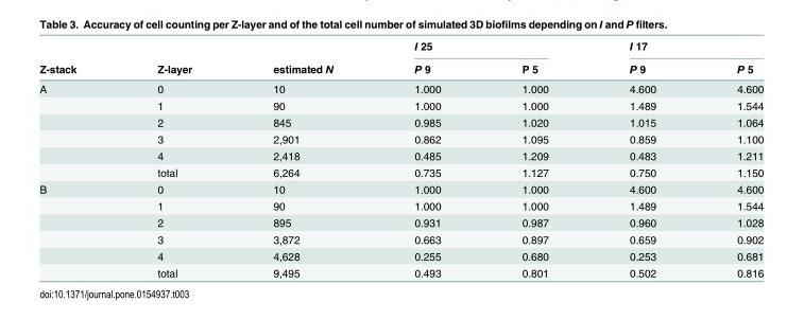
<table><thead><tr><td rowspan="2">Z-stack</td><td rowspan="2">Z-layer</td><td rowspan="2">estimated N</td><td colspan="2">I 25</td><td colspan="2">I 17</td></tr><tr><td>P 9</td><td>P 5</td><td>P 9</td><td>P 5</td></tr></thead><tbody><tr><td rowspan="6">A</td><td>0</td><td>10</td><td>1.000</td><td>1.000</td><td>4.600</td><td>4.600</td></tr><tr><td>1</td><td>90</td><td>1.000</td><td>1.000</td><td>1.489</td><td>1.544</td></tr><tr><td>2</td><td>845</td><td>0.985</td><td>1.020</td><td>1.015</td><td>1.064</td></tr><tr><td>3</td><td>2,901</td><td>0.862</td><td>1.095</td><td>0.859</td><td>1.100</td></tr><tr><td>4</td><td>2,418</td><td>0.485</td><td>1.209</td><td>0.483</td><td>1.211</td></tr><tr><td>total</td><td>6,264</td><td>0.735</td><td>1.127</td><td>0.750</td><td>1.150</td></tr><tr><td rowspan="6">B</td><td>0</td><td>10</td><td>1.000</td><td>1.000</td><td>4.600</td><td>4.600</td></tr><tr><td>1</td><td>90</td><td>1.000</td><td>1.000</td><td>1.489</td><td>1.544</td></tr><tr><td>2</td><td>895</td><td>0.931</td><td>0.987</td><td>0.960</td><td>1.028</td></tr><tr><td>3</td><td>3,872</td><td>0.663</td><td>0.897</td><td>0.659</td><td>0.902</td></tr><tr><td>4</td><td>4,628</td><td>0.255</td><td>0.680</td><td>0.253</td><td>0.681</td></tr><tr><td>total</td><td>9,495</td><td>0.493</td><td>0.801</td><td>0.502</td><td>0.816</td></tr></tbody></table>